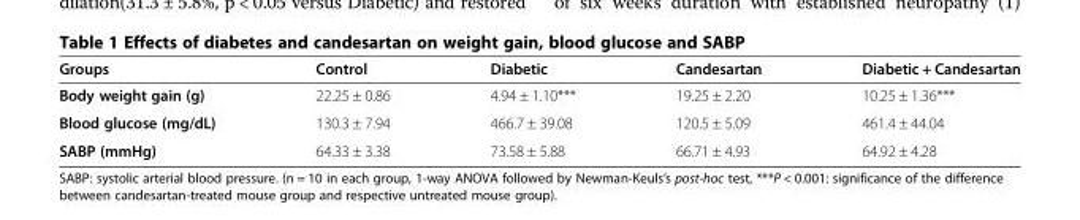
<table><thead><tr><td>Groups</td><td>Control</td><td>Diabetic</td><td>Candesartan</td><td>Diabetic + Candesartan</td></tr></thead><tbody><tr><td>Body weight gain (g)</td><td>22.25 ± 0.86</td><td>4.94 ± 1.10***</td><td>19.25 ± 2.20</td><td>10.25 ± 1.36***</td></tr><tr><td>Blood glucose (mg/dL)</td><td>130.3 ± 7.94</td><td>466.7 ± 39.08</td><td>120.5 ± 5.09</td><td>461.4 ± 44.04</td></tr><tr><td>SABP (mmHg)</td><td>64.33 ± 3.38</td><td>73.58 ± 5.88</td><td>66.71 ± 4.93</td><td>64.92 ± 4.28</td></tr></tbody></table>